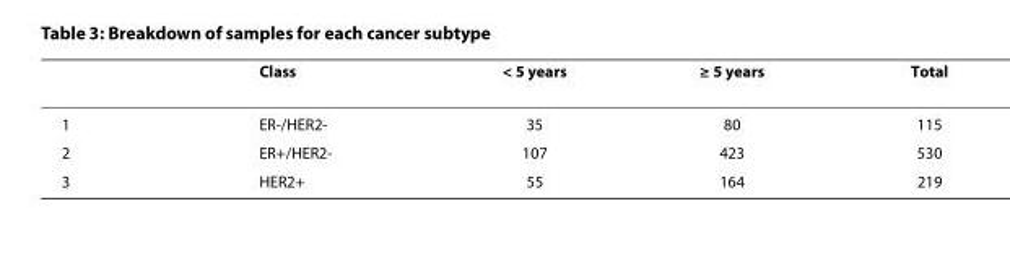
<table><thead><tr><td></td><td>Class</td><td>&lt; 5 years</td><td>≥ 5 years</td><td>Total</td></tr></thead><tbody><tr><td>1</td><td>ER-/HER2-</td><td>35</td><td>80</td><td>115</td></tr><tr><td>2</td><td>ER+/HER2-</td><td>107</td><td>423</td><td>530</td></tr><tr><td>3</td><td>HER2+</td><td>55</td><td>164</td><td>219</td></tr></tbody></table>